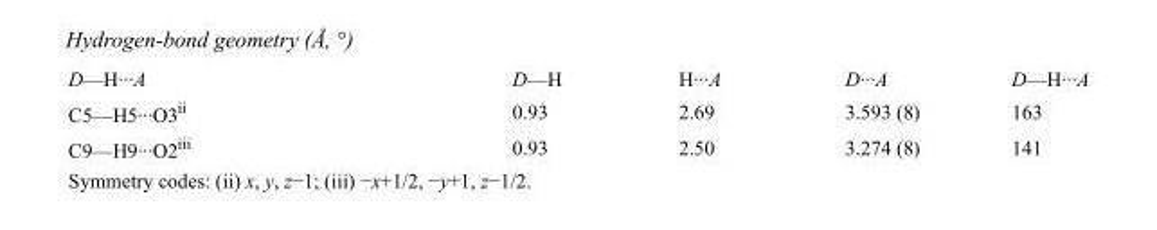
<table><tbody><tr><td>D—H···A</td><td>D—H</td><td>H···A</td><td>D···A</td><td>D—H···A</td></tr><tr><td>C5—H5···O3<sup>ii</sup></td><td>0.93</td><td>2.69</td><td>3.593 (8)</td><td>163</td></tr><tr><td>C9—H9···O2<sup>iii</sup></td><td>0.93</td><td>2.50</td><td>3.274 (8)</td><td>141</td></tr></tbody></table>